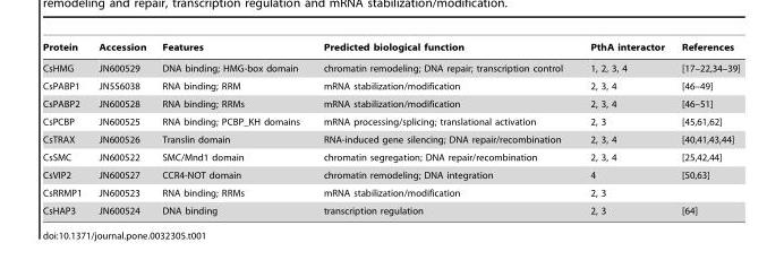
<table><thead><tr><td>Protein</td><td>Accession</td><td>Features</td><td>Predicted biological function</td><td>PthA interactor</td><td>References</td></tr></thead><tbody><tr><td>CsHMG</td><td>JN600529</td><td>DNA binding; HMG-box domain</td><td>chromatin remodeling; DNA repair; transcription control</td><td>1, 2, 3, 4</td><td>[17–22,34–39]</td></tr><tr><td>CsPABP1</td><td>JN556038</td><td>RNA binding; RRM</td><td>mRNA stabilization/modification</td><td>2, 3, 4</td><td>[46–49]</td></tr><tr><td>CsPABP2</td><td>JN600528</td><td>RNA binding; RRMs</td><td>mRNA stabilization/modification</td><td>2, 3, 4</td><td>[46–51]</td></tr><tr><td>CsPCBP</td><td>JN600525</td><td>RNA binding; PCBP_KH domains</td><td>mRNA processing/splicing; translational activation</td><td>2, 3</td><td>[45,61,62]</td></tr><tr><td>CsTRAX</td><td>JN600526</td><td>Translin domain</td><td>RNA-induced gene silencing; DNA repair/recombination</td><td>2, 3, 4</td><td>[40,41,43,44]</td></tr><tr><td>CsSMC</td><td>JN600522</td><td>SMC/Mnd1 domain</td><td>chromatin segregation; DNA repair/recombination</td><td>2, 3, 4</td><td>[25,42,44]</td></tr><tr><td>CsVIP2</td><td>JN600527</td><td>CCR4-NOT domain</td><td>chromatin remodeling; DNA integration</td><td>4</td><td>[50,63]</td></tr><tr><td>CsRRMP1</td><td>JN600523</td><td>RNA binding; RRMs</td><td>mRNA stabilization/modification</td><td>2, 3</td><td></td></tr><tr><td>CsHAP3</td><td>JN600524</td><td>DNA binding</td><td>transcription regulation</td><td>2, 3</td><td>[64]</td></tr></tbody></table>